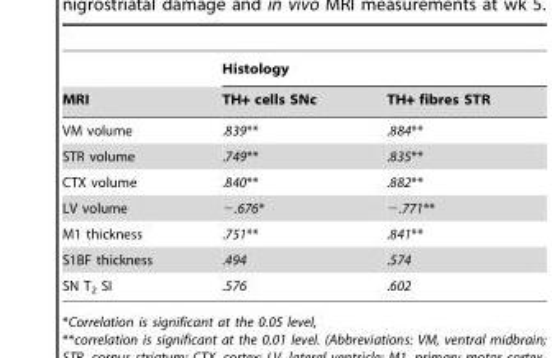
<table><thead><tr><td rowspan="2">MRI</td><td colspan="2">Histology</td></tr><tr><td>TH+ cells SNc</td><td>TH+ fibres STR</td></tr></thead><tbody><tr><td>VM volume</td><td>.839**</td><td>.884**</td></tr><tr><td>STR volume</td><td>.749**</td><td>.835**</td></tr><tr><td>CTX volume</td><td>.840**</td><td>.882**</td></tr><tr><td>LV volume</td><td>−.676*</td><td>−.771**</td></tr><tr><td>M1 thickness</td><td>.751**</td><td>.841**</td></tr><tr><td>S1BF thickness</td><td>.494</td><td>.574</td></tr><tr><td>SN T<sub>2</sub> SI</td><td>.576</td><td>.602</td></tr></tbody></table>